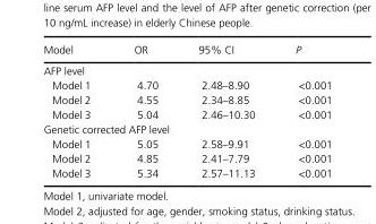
<table><thead><tr><td>Model</td><td>OR</td><td>95% CI</td><td>P</td></tr></thead><tbody><tr><td colspan="4">AFP level</td></tr><tr><td>Model 1</td><td>4.70</td><td>2.48–8.90</td><td>&lt;0.001</td></tr><tr><td>Model 2</td><td>4.55</td><td>2.34–8.85</td><td>&lt;0.001</td></tr><tr><td>Model 3</td><td>5.04</td><td>2.46–10.30</td><td>&lt;0.001</td></tr><tr><td colspan="4">Genetic corrected AFP level</td></tr><tr><td>Model 1</td><td>5.05</td><td>2.58–9.91</td><td>&lt;0.001</td></tr><tr><td>Model 2</td><td>4.85</td><td>2.41–7.79</td><td>&lt;0.001</td></tr><tr><td>Model 3</td><td>5.34</td><td>2.57–11.13</td><td>&lt;0.001</td></tr></tbody></table>